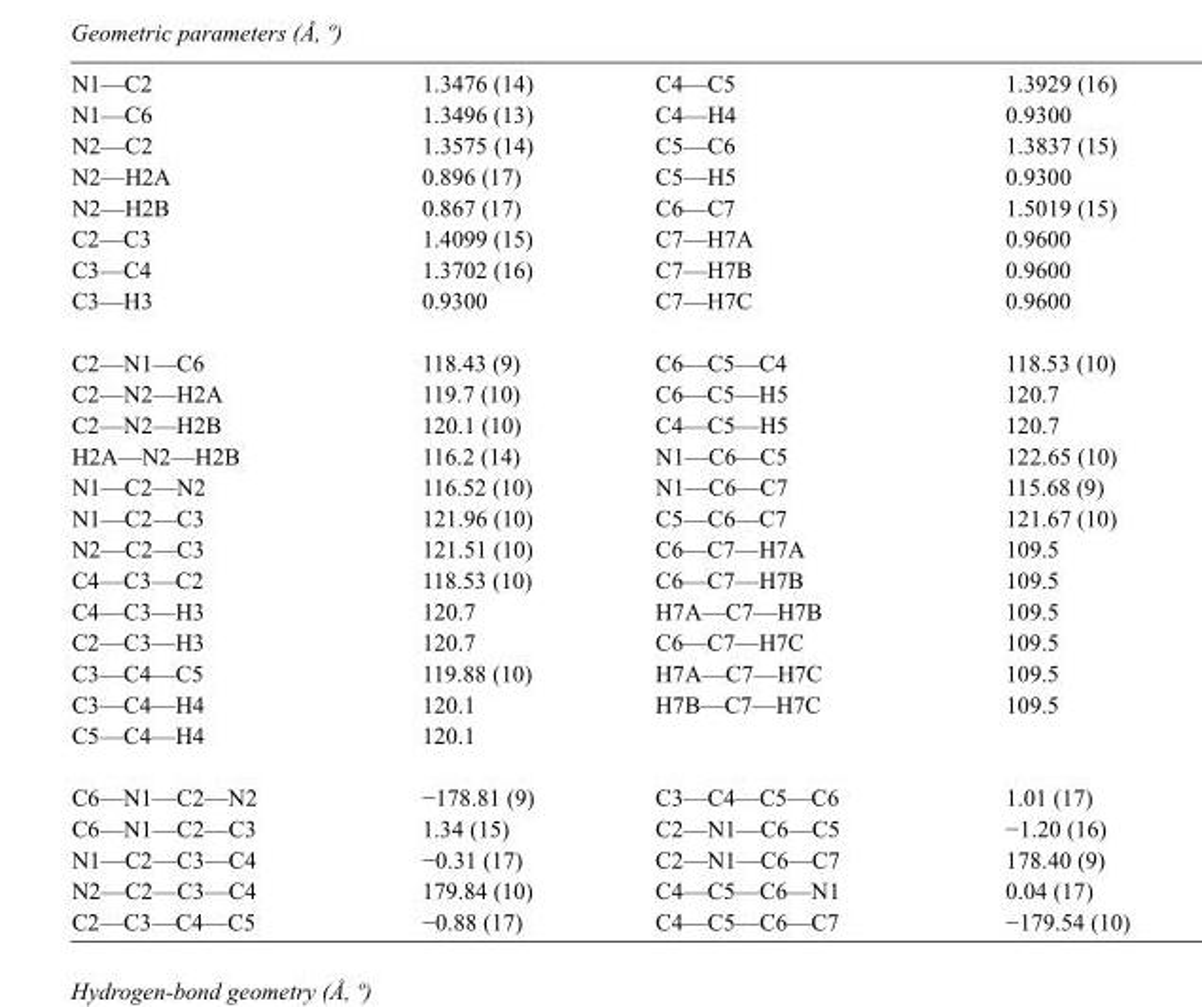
<table><tbody><tr><td>N1—C2</td><td>1.3476 (14)</td><td>C4—C5</td><td>1.3929 (16)</td></tr><tr><td>N1—C6</td><td>1.3496 (13)</td><td>C4—H4</td><td>0.9300</td></tr><tr><td>N2—C2</td><td>1.3575 (14)</td><td>C5—C6</td><td>1.3837 (15)</td></tr><tr><td>N2—H2A</td><td>0.896 (17)</td><td>C5—H5</td><td>0.9300</td></tr><tr><td>N2—H2B</td><td>0.867 (17)</td><td>C6—C7</td><td>1.5019 (15)</td></tr><tr><td>C2—C3</td><td>1.4099 (15)</td><td>C7—H7A</td><td>0.9600</td></tr><tr><td>C3—C4</td><td>1.3702 (16)</td><td>C7—H7B</td><td>0.9600</td></tr><tr><td>C3—H3</td><td>0.9300</td><td>C7—H7C</td><td>0.9600</td></tr><tr><td>C2—N1—C6</td><td>118.43 (9)</td><td>C6—C5—C4</td><td>118.53 (10)</td></tr><tr><td>C2—N2—H2A</td><td>119.7 (10)</td><td>C6—C5—H5</td><td>120.7</td></tr><tr><td>C2—N2—H2B</td><td>120.1 (10)</td><td>C4—C5—H5</td><td>120.7</td></tr><tr><td>H2A—N2—H2B</td><td>116.2 (14)</td><td>N1—C6—C5</td><td>122.65 (10)</td></tr><tr><td>N1—C2—N2</td><td>116.52 (10)</td><td>N1—C6—C7</td><td>115.68 (9)</td></tr><tr><td>N1—C2—C3</td><td>121.96 (10)</td><td>C5—C6—C7</td><td>121.67 (10)</td></tr><tr><td>N2—C2—C3</td><td>121.51 (10)</td><td>C6—C7—H7A</td><td>109.5</td></tr><tr><td>C4—C3—C2</td><td>118.53 (10)</td><td>C6—C7—H7B</td><td>109.5</td></tr><tr><td>C4—C3—H3</td><td>120.7</td><td>H7A—C7—H7B</td><td>109.5</td></tr><tr><td>C2—C3—H3</td><td>120.7</td><td>C6—C7—H7C</td><td>109.5</td></tr><tr><td>C3—C4—C5</td><td>119.88 (10)</td><td>H7A—C7—H7C</td><td>109.5</td></tr><tr><td>C3—C4—H4</td><td>120.1</td><td>H7B—C7—H7C</td><td>109.5</td></tr><tr><td>C5—C4—H4</td><td>120.1</td><td></td><td></td></tr><tr><td>C6—N1—C2—N2</td><td>−178.81 (9)</td><td>C3—C4—C5—C6</td><td>1.01 (17)</td></tr><tr><td>C6—N1—C2—C3</td><td>1.34 (15)</td><td>C2—N1—C6—C5</td><td>−1.20 (16)</td></tr><tr><td>N1—C2—C3—C4</td><td>−0.31 (17)</td><td>C2—N1—C6—C7</td><td>178.40 (9)</td></tr><tr><td>N2—C2—C3—C4</td><td>179.84 (10)</td><td>C4—C5—C6—N1</td><td>0.04 (17)</td></tr><tr><td>C2—C3—C4—C5</td><td>−0.88 (17)</td><td>C4—C5—C6—C7</td><td>−179.54 (10)</td></tr></tbody></table>